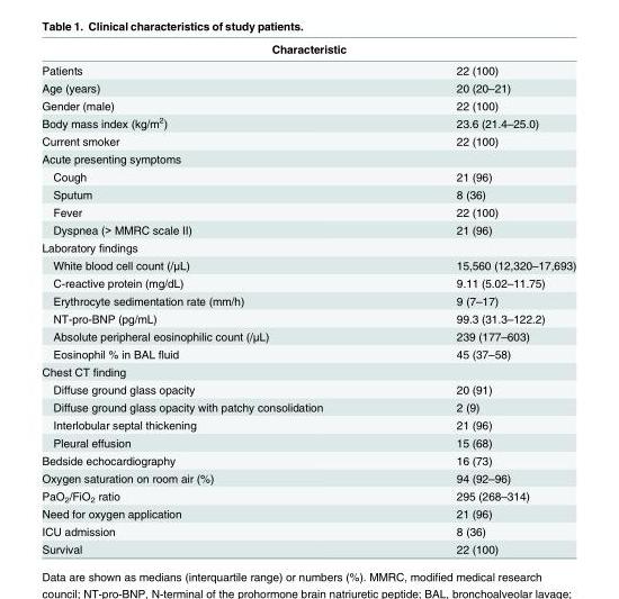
<table><thead><tr><td colspan="2">Characteristic</td></tr><tr><td>Patients</td><td>22 (100)</td></tr></thead><tbody><tr><td>Age (years)</td><td>20 (20–21)</td></tr><tr><td>Gender (male)</td><td>22 (100)</td></tr><tr><td>Body mass index (kg/m<sup>2</sup>)</td><td>23.6 (21.4–25.0)</td></tr><tr><td>Current smoker</td><td>22 (100)</td></tr><tr><td colspan="2">Acute presenting symptoms</td></tr><tr><td>Cough</td><td>21 (96)</td></tr><tr><td>Sputum</td><td>8 (36)</td></tr><tr><td>Fever</td><td>22 (100)</td></tr><tr><td>Dyspnea (&gt; MMRC scale II)</td><td>21 (96)</td></tr><tr><td colspan="2">Laboratory findings</td></tr><tr><td>White blood cell count (/μL)</td><td>15,560 (12,320–17,693)</td></tr><tr><td>C-reactive protein (mg/dL)</td><td>9.11 (5.02–11.75)</td></tr><tr><td>Erythrocyte sedimentation rate (mm/h)</td><td>9 (7–17)</td></tr><tr><td>NT-pro-BNP (pg/mL)</td><td>99.3 (31.3–122.2)</td></tr><tr><td>Absolute peripheral eosinophilic count (/μL)</td><td>239 (177–603)</td></tr><tr><td>Eosinophil % in BAL fluid</td><td>45 (37–58)</td></tr><tr><td colspan="2">Chest CT finding</td></tr><tr><td>Diffuse ground glass opacity</td><td>20 (91)</td></tr><tr><td>Diffuse ground glass opacity with patchy consolidation</td><td>2 (9)</td></tr><tr><td>Interlobular septal thickening</td><td>21 (96)</td></tr><tr><td>Pleural effusion</td><td>15 (68)</td></tr><tr><td>Bedside echocardiography</td><td>16 (73)</td></tr><tr><td>Oxygen saturation on room air (%)</td><td>94 (92–96)</td></tr><tr><td>PaO<sub>2</sub>/FiO<sub>2</sub> ratio</td><td>295 (268–314)</td></tr><tr><td>Need for oxygen application</td><td>21 (96)</td></tr><tr><td>ICU admission</td><td>8 (36)</td></tr><tr><td>Survival</td><td>22 (100)</td></tr></tbody></table>